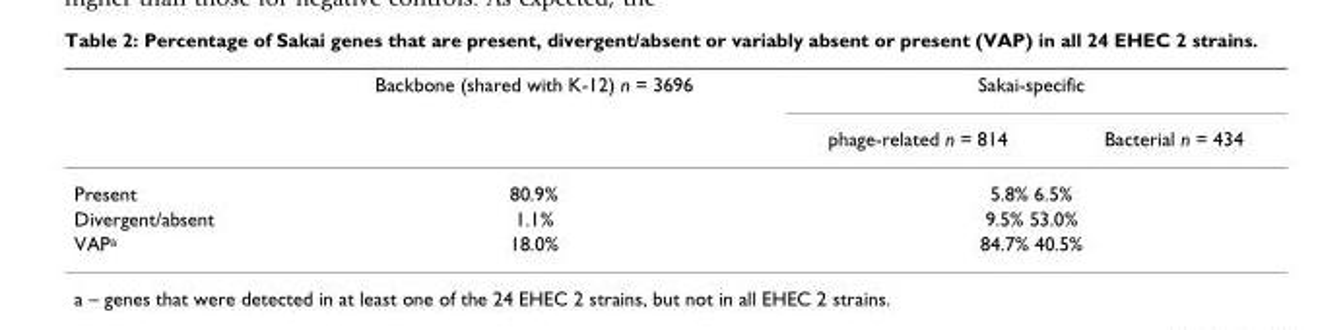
<table><thead><tr><td rowspan="2"></td><td rowspan="2">Backbone (shared with K-12) n = 3696</td><td colspan="2">Sakai-specific</td></tr><tr><td>phage-related n = 814</td><td>Bacterial n = 434</td></tr></thead><tbody><tr><td>Present</td><td>80.9%</td><td colspan="2">5.8% 6.5%</td></tr><tr><td>Divergent/absent</td><td>1.1%</td><td colspan="2">9.5% 53.0%</td></tr><tr><td>VAP<sup>a</sup></td><td>18.0%</td><td colspan="2">84.7% 40.5%</td></tr></tbody></table>